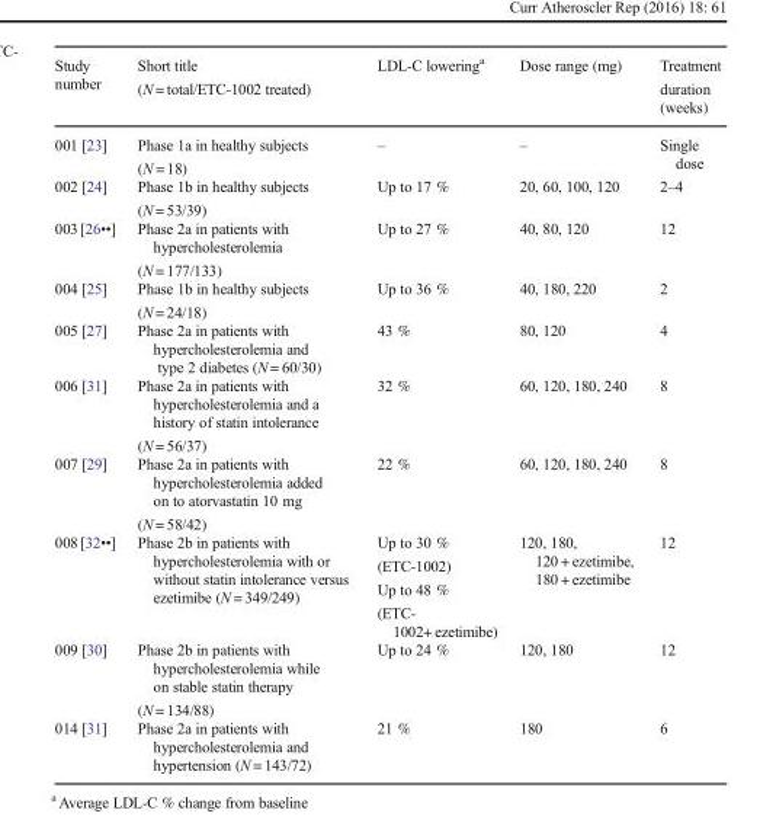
<table><thead><tr><td>Study number</td><td>Short title (N = total/ETC-1002 treated)</td><td>LDL-C lowering<sup>a</sup></td><td>Dose range (mg)</td><td>Treatment duration (weeks)</td></tr></thead><tbody><tr><td>001 [23]</td><td>Phase 1a in healthy subjects (N = 18)</td><td>–</td><td>–</td><td>Single dose</td></tr><tr><td>002 [24]</td><td>Phase 1b in healthy subjects (N = 53/39)</td><td>Up to 17 %</td><td>20, 60, 100, 120</td><td>2–4</td></tr><tr><td>003 [26••]</td><td>Phase 2a in patients with hypercholesterolemia (N = 177/133)</td><td>Up to 27 %</td><td>40, 80, 120</td><td>12</td></tr><tr><td>004 [25]</td><td>Phase 1b in healthy subjects (N = 24/18)</td><td>Up to 36 %</td><td>40, 180, 220</td><td>2</td></tr><tr><td>005 [27]</td><td>Phase 2a in patients with hypercholesterolemia and type 2 diabetes (N = 60/30)</td><td>43 %</td><td>80, 120</td><td>4</td></tr><tr><td>006 [31]</td><td>Phase 2a in patients with hypercholesterolemia and a history of statin intolerance (N = 56/37)</td><td>32 %</td><td>60, 120, 180, 240</td><td>8</td></tr><tr><td>007 [29]</td><td>Phase 2a in patients with hypercholesterolemia added on to atorvastatin 10 mg (N = 58/42)</td><td>22 %</td><td>60, 120, 180, 240</td><td>8</td></tr><tr><td>008 [32••]</td><td>Phase 2b in patients with hypercholesterolemia with or without statin intolerance versus ezetimibe (N = 349/249)</td><td>Up to 30 % (ETC-1002) Up to 48 % (ETC- 1002+ ezetimibe)</td><td>120, 180, 120 + ezetimibe, 180 + ezetimibe</td><td>12</td></tr><tr><td>009 [30]</td><td>Phase 2b in patients with hypercholesterolemia while on stable statin therapy (N = 134/88)</td><td>Up to 24 %</td><td>120, 180</td><td>12</td></tr><tr><td>014 [31]</td><td>Phase 2a in patients with hypercholesterolemia and hypertension (N = 143/72)</td><td>21 %</td><td>180</td><td>6</td></tr></tbody></table>